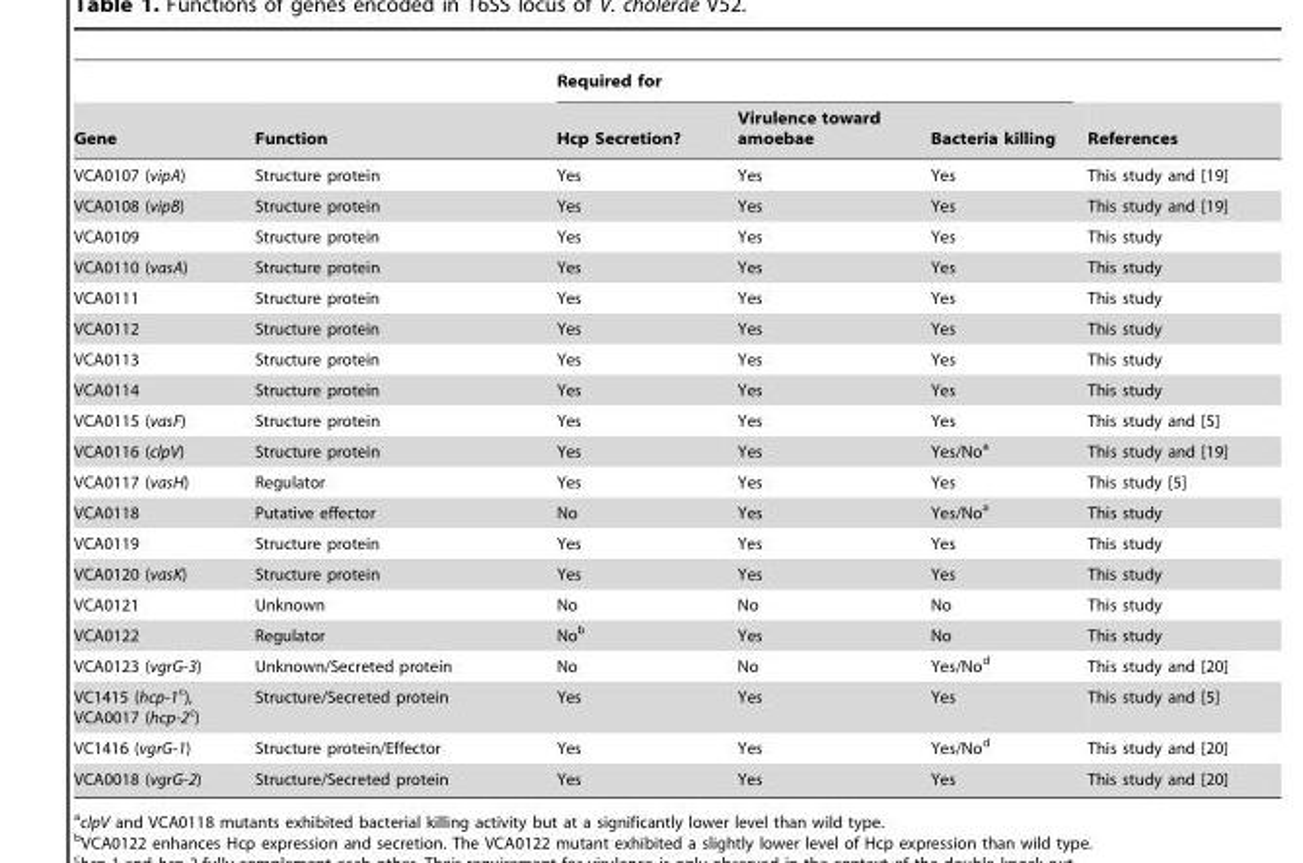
<table><thead><tr><td rowspan="2">Gene</td><td rowspan="2">Function</td><td colspan="3">Required for</td><td rowspan="2">References</td></tr><tr><td>Hcp Secretion?</td><td>Virulence toward amoebae</td><td>Bacteria killing</td></tr></thead><tbody><tr><td>VCA0107 (vipA)</td><td>Structure protein</td><td>Yes</td><td>Yes</td><td>Yes</td><td>This study and [19]</td></tr><tr><td>VCA0108 (vipB)</td><td>Structure protein</td><td>Yes</td><td>Yes</td><td>Yes</td><td>This study and [19]</td></tr><tr><td>VCA0109</td><td>Structure protein</td><td>Yes</td><td>Yes</td><td>Yes</td><td>This study</td></tr><tr><td>VCA0110 (vasA)</td><td>Structure protein</td><td>Yes</td><td>Yes</td><td>Yes</td><td>This study</td></tr><tr><td>VCA0111</td><td>Structure protein</td><td>Yes</td><td>Yes</td><td>Yes</td><td>This study</td></tr><tr><td>VCA0112</td><td>Structure protein</td><td>Yes</td><td>Yes</td><td>Yes</td><td>This study</td></tr><tr><td>VCA0113</td><td>Structure protein</td><td>Yes</td><td>Yes</td><td>Yes</td><td>This study</td></tr><tr><td>VCA0114</td><td>Structure protein</td><td>Yes</td><td>Yes</td><td>Yes</td><td>This study</td></tr><tr><td>VCA0115 (vasF)</td><td>Structure protein</td><td>Yes</td><td>Yes</td><td>Yes</td><td>This study and [5]</td></tr><tr><td>VCA0116 (clpV)</td><td>Structure protein</td><td>Yes</td><td>Yes</td><td>Yes/No<sup>a</sup></td><td>This study and [19]</td></tr><tr><td>VCA0117 (vasH)</td><td>Regulator</td><td>Yes</td><td>Yes</td><td>Yes</td><td>This study [5]</td></tr><tr><td>VCA0118</td><td>Putative effector</td><td>No</td><td>Yes</td><td>Yes/No<sup>a</sup></td><td>This study</td></tr><tr><td>VCA0119</td><td>Structure protein</td><td>Yes</td><td>Yes</td><td>Yes</td><td>This study</td></tr><tr><td>VCA0120 (vasK)</td><td>Structure protein</td><td>Yes</td><td>Yes</td><td>Yes</td><td>This study</td></tr><tr><td>VCA0121</td><td>Unknown</td><td>No</td><td>No</td><td>No</td><td>This study</td></tr><tr><td>VCA0122</td><td>Regulator</td><td>No<sup>b</sup></td><td>Yes</td><td>No</td><td>This study</td></tr><tr><td>VCA0123 (vgrG-3)</td><td>Unknown/Secreted protein</td><td>No</td><td>No</td><td>Yes/No<sup>d</sup></td><td>This study and [20]</td></tr><tr><td>VC1415 (hcp-1c), VCA0017 (hcp-2c)</td><td>Structure/Secreted protein</td><td>Yes</td><td>Yes</td><td>Yes</td><td>This study and [5]</td></tr><tr><td>VC1416 (vgrG-1)</td><td>Structure protein/Effector</td><td>Yes</td><td>Yes</td><td>Yes/No<sup>d</sup></td><td>This study and [20]</td></tr><tr><td>VCA0018 (vgrG-2)</td><td>Structure/Secreted protein</td><td>Yes</td><td>Yes</td><td>Yes</td><td>This study and [20]</td></tr></tbody></table>